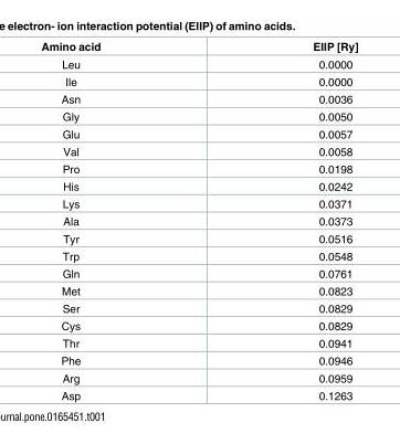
<table><thead><tr><td>Amino acid</td><td>EIIP [Ry]</td></tr></thead><tbody><tr><td>Leu</td><td>0.0000</td></tr><tr><td>Ile</td><td>0.0000</td></tr><tr><td>Asn</td><td>0.0036</td></tr><tr><td>Gly</td><td>0.0050</td></tr><tr><td>Glu</td><td>0.0057</td></tr><tr><td>Val</td><td>0.0058</td></tr><tr><td>Pro</td><td>0.0198</td></tr><tr><td>His</td><td>0.0242</td></tr><tr><td>Lys</td><td>0.0371</td></tr><tr><td>Ala</td><td>0.0373</td></tr><tr><td>Tyr</td><td>0.0516</td></tr><tr><td>Trp</td><td>0.0548</td></tr><tr><td>Gln</td><td>0.0761</td></tr><tr><td>Met</td><td>0.0823</td></tr><tr><td>Ser</td><td>0.0829</td></tr><tr><td>Cys</td><td>0.0829</td></tr><tr><td>Thr</td><td>0.0941</td></tr><tr><td>Phe</td><td>0.0946</td></tr><tr><td>Arg</td><td>0.0959</td></tr><tr><td>Asp</td><td>0.1263</td></tr></tbody></table>